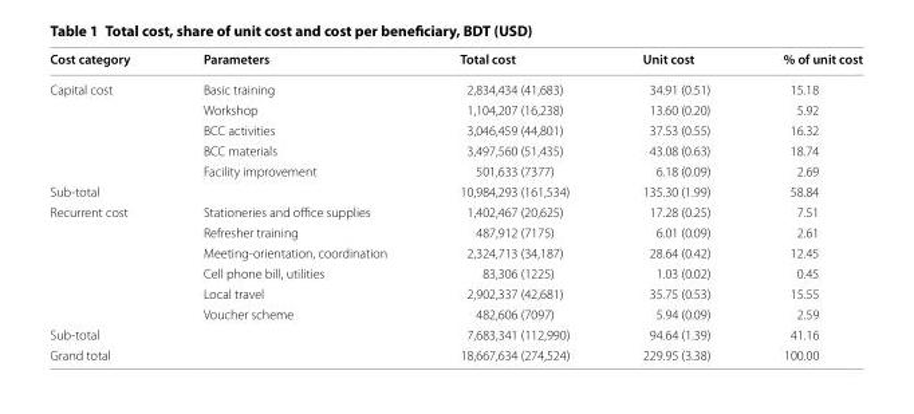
<table><thead><tr><td>Cost category</td><td>Parameters</td><td>Total cost</td><td>Unit cost</td><td>% of unit cost</td></tr></thead><tbody><tr><td rowspan="5">Capital cost</td><td>Basic training</td><td>2,834,434 (41,683)</td><td>34.91 (0.51)</td><td>15.18</td></tr><tr><td>Workshop</td><td>1,104,207 (16,238)</td><td>13.60 (0.20)</td><td>5.92</td></tr><tr><td>BCC activities</td><td>3,046,459 (44,801)</td><td>37.53 (0.55)</td><td>16.32</td></tr><tr><td>BCC materials</td><td>3,497,560 (51,435)</td><td>43.08 (0.63)</td><td>18.74</td></tr><tr><td>Facility improvement</td><td>501,633 (7377)</td><td>6.18 (0.09)</td><td>2.69</td></tr><tr><td>Sub-total</td><td></td><td>10,984,293 (161,534)</td><td>135.30 (1.99)</td><td>58.84</td></tr><tr><td rowspan="6">Recurrent cost</td><td>Stationeries and office supplies</td><td>1,402,467 (20,625)</td><td>17.28 (0.25)</td><td>7.51</td></tr><tr><td>Refresher training</td><td>487,912 (7175)</td><td>6.01 (0.09)</td><td>2.61</td></tr><tr><td>Meeting-orientation, coordination</td><td>2,324,713 (34,187)</td><td>28.64 (0.42)</td><td>12.45</td></tr><tr><td>Cell phone bill, utilities</td><td>83,306 (1225)</td><td>1.03 (0.02)</td><td>0.45</td></tr><tr><td>Local travel</td><td>2,902,337 (42,681)</td><td>35.75 (0.53)</td><td>15.55</td></tr><tr><td>Voucher scheme</td><td>482,606 (7097)</td><td>5.94 (0.09)</td><td>2.59</td></tr><tr><td>Sub-total</td><td></td><td>7,683,341 (112,990)</td><td>94.64 (1.39)</td><td>41.16</td></tr><tr><td>Grand total</td><td></td><td>18,667,634 (274,524)</td><td>229.95 (3.38)</td><td>100.00</td></tr></tbody></table>